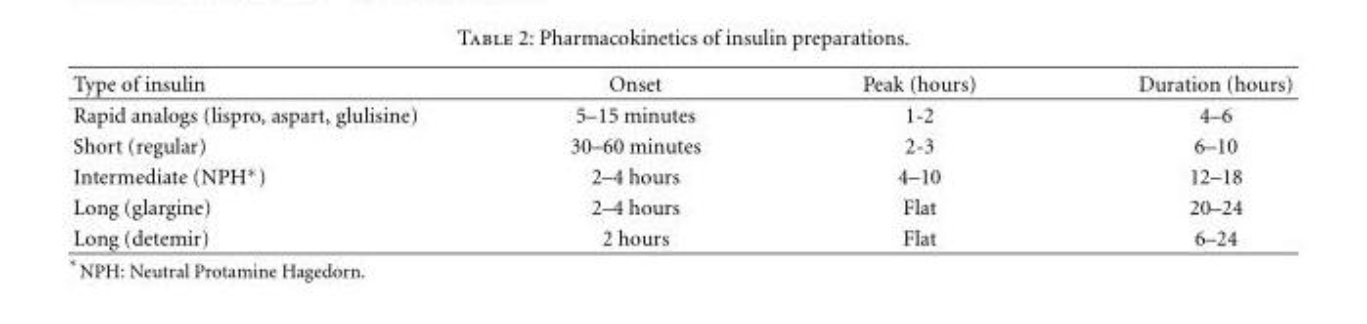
<table><thead><tr><td>Type of insulin</td><td>Onset</td><td>Peak (hours)</td><td>Duration (hours)</td></tr></thead><tbody><tr><td>Rapid analogs (lispro, aspart, glulisine)</td><td>5–15 minutes</td><td>1-2</td><td>4–6</td></tr><tr><td>Short (regular)</td><td>30–60 minutes</td><td>2-3</td><td>6–10</td></tr><tr><td>Intermediate (NPH∗)</td><td>2–4 hours</td><td>4–10</td><td>12–18</td></tr><tr><td>Long (glargine)</td><td>2–4 hours</td><td>Flat</td><td>20–24</td></tr><tr><td>Long (detemir)</td><td>2 hours</td><td>Flat</td><td>6–24</td></tr></tbody></table>